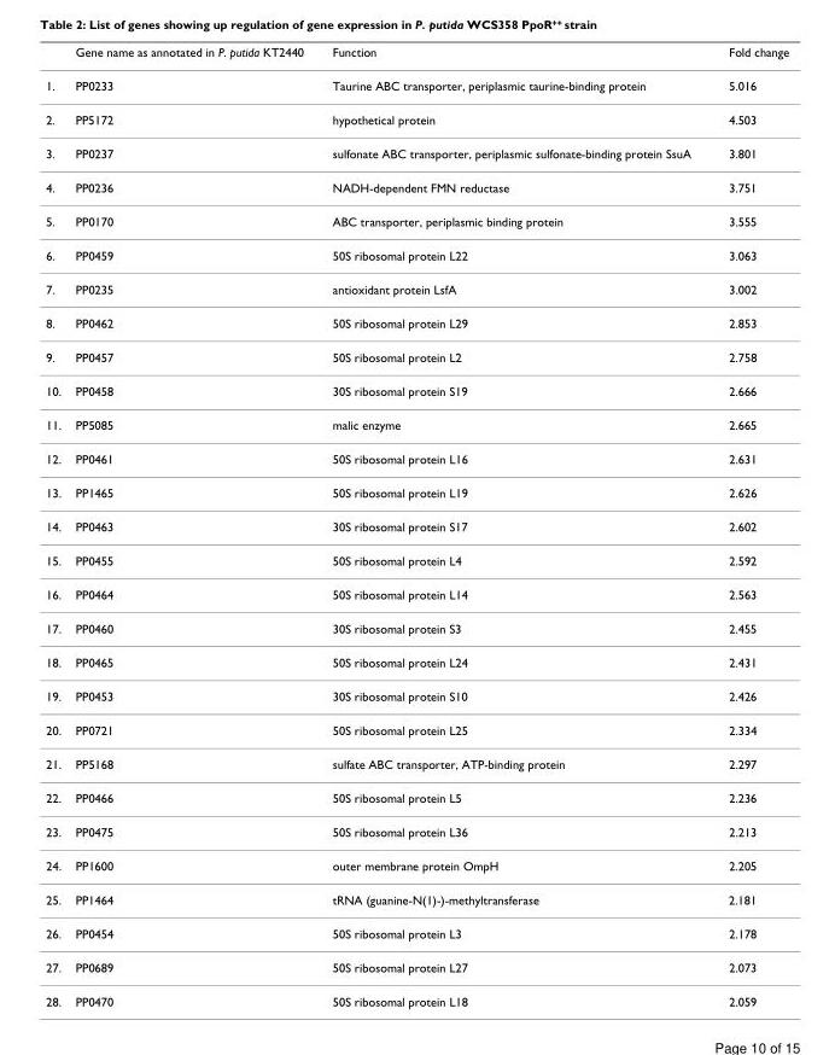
<table><thead><tr><td></td><td>Gene name as annotated in P. putida KT2440</td><td>Function</td><td>Fold change</td></tr></thead><tbody><tr><td>1.</td><td>PP0233</td><td>Taurine ABC transporter, periplasmic taurine-binding protein</td><td>5.016</td></tr><tr><td>2.</td><td>PP5172</td><td>hypothetical protein</td><td>4.503</td></tr><tr><td>3.</td><td>PP0237</td><td>sulfonate ABC transporter, periplasmic sulfonate-binding protein SsuA</td><td>3.801</td></tr><tr><td>4.</td><td>PP0236</td><td>NADH-dependent FMN reductase</td><td>3.751</td></tr><tr><td>5.</td><td>PP0170</td><td>ABC transporter, periplasmic binding protein</td><td>3.555</td></tr><tr><td>6.</td><td>PP0459</td><td>50S ribosomal protein L22</td><td>3.063</td></tr><tr><td>7.</td><td>PP0235</td><td>antioxidant protein LsfA</td><td>3.002</td></tr><tr><td>8.</td><td>PP0462</td><td>50S ribosomal protein L29</td><td>2.853</td></tr><tr><td>9.</td><td>PP0457</td><td>50S ribosomal protein L2</td><td>2.758</td></tr><tr><td>10.</td><td>PP0458</td><td>30S ribosomal protein S19</td><td>2.666</td></tr><tr><td>11.</td><td>PP5085</td><td>malic enzyme</td><td>2.665</td></tr><tr><td>12.</td><td>PP0461</td><td>50S ribosomal protein L16</td><td>2.631</td></tr><tr><td>13.</td><td>PP1465</td><td>50S ribosomal protein L19</td><td>2.626</td></tr><tr><td>14.</td><td>PP0463</td><td>30S ribosomal protein S17</td><td>2.602</td></tr><tr><td>15.</td><td>PP0455</td><td>50S ribosomal protein L4</td><td>2.592</td></tr><tr><td>16.</td><td>PP0464</td><td>50S ribosomal protein L14</td><td>2.563</td></tr><tr><td>17.</td><td>PP0460</td><td>30S ribosomal protein S3</td><td>2.455</td></tr><tr><td>18.</td><td>PP0465</td><td>50S ribosomal protein L24</td><td>2.431</td></tr><tr><td>19.</td><td>PP0453</td><td>30S ribosomal protein S10</td><td>2.426</td></tr><tr><td>20.</td><td>PP0721</td><td>50S ribosomal protein L25</td><td>2.334</td></tr><tr><td>21.</td><td>PP5168</td><td>sulfate ABC transporter, ATP-binding protein</td><td>2.297</td></tr><tr><td>22.</td><td>PP0466</td><td>50S ribosomal protein L5</td><td>2.236</td></tr><tr><td>23.</td><td>PP0475</td><td>50S ribosomal protein L36</td><td>2.213</td></tr><tr><td>24.</td><td>PP1600</td><td>outer membrane protein OmpH</td><td>2.205</td></tr><tr><td>25.</td><td>PP1464</td><td>tRNA (guanine-N(1)-)-methyltransferase</td><td>2.181</td></tr><tr><td>26.</td><td>PP0454</td><td>50S ribosomal protein L3</td><td>2.178</td></tr><tr><td>27.</td><td>PP0689</td><td>50S ribosomal protein L27</td><td>2.073</td></tr><tr><td>28.</td><td>PP0470</td><td>50S ribosomal protein L18</td><td>2.059</td></tr></tbody></table>